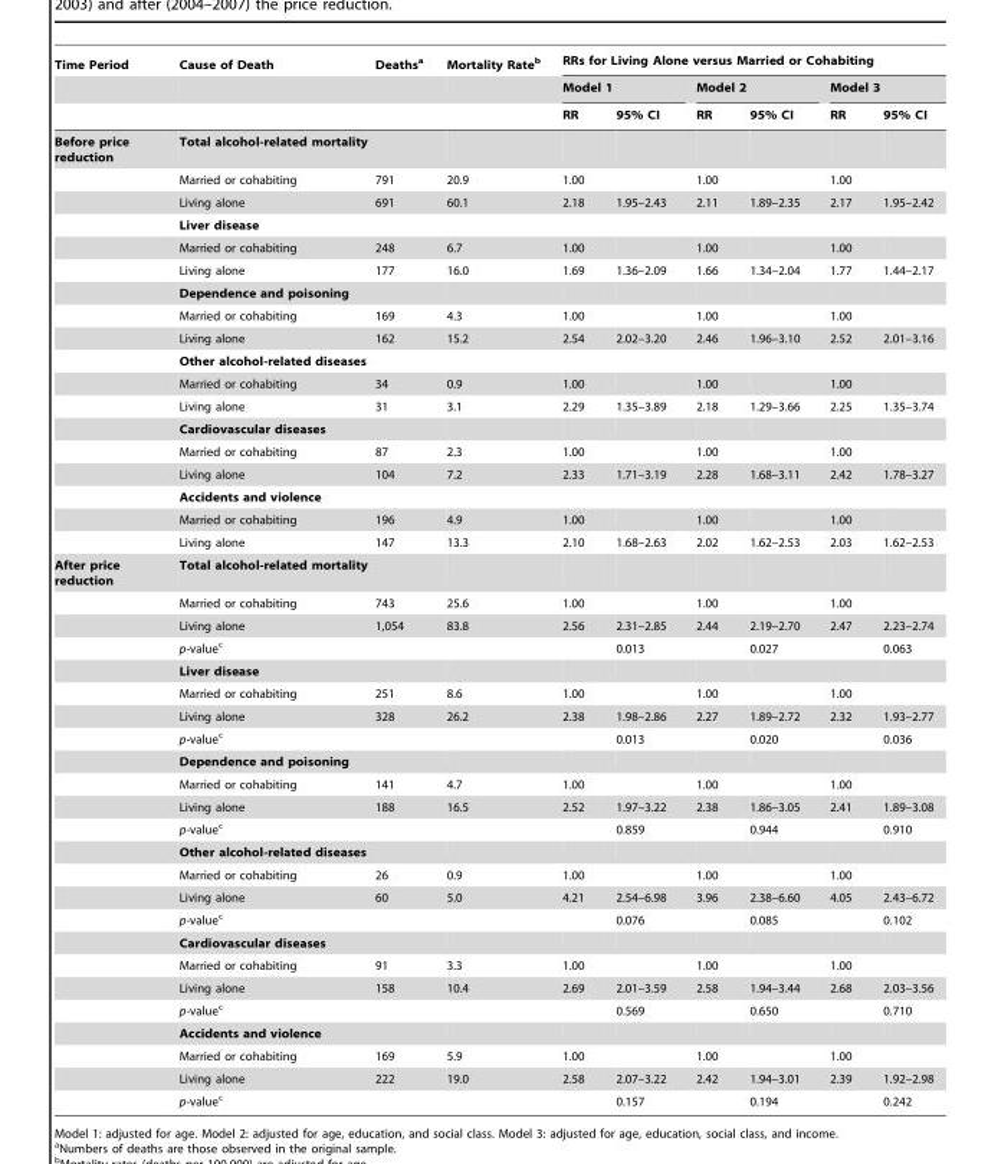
<table><thead><tr><td rowspan="3">Time Period</td><td rowspan="3">Cause of Death</td><td rowspan="3">Deaths<sup>a</sup></td><td rowspan="3">Mortality Rate<sup>b</sup></td><td colspan="6">RRs for Living Alone versus Married or Cohabiting</td></tr><tr><td colspan="2">Model 1</td><td colspan="2">Model 2</td><td colspan="2">Model 3</td></tr><tr><td>RR</td><td>95% CI</td><td>RR</td><td>95% CI</td><td>RR</td><td>95% CI</td></tr></thead><tbody><tr><td rowspan="18">Before price reduction</td><td>Total alcohol-related mortality</td><td></td><td></td><td></td><td></td><td></td><td></td><td></td><td></td></tr><tr><td>Married or cohabiting</td><td>791</td><td>20.9</td><td>1.00</td><td></td><td>1.00</td><td></td><td>1.00</td><td></td></tr><tr><td>Living alone</td><td>691</td><td>60.1</td><td>2.18</td><td>1.95–2.43</td><td>2.11</td><td>1.89–2.35</td><td>2.17</td><td>1.95–2.42</td></tr><tr><td>Liver disease</td><td></td><td></td><td></td><td></td><td></td><td></td><td></td><td></td></tr><tr><td>Married or cohabiting</td><td>248</td><td>6.7</td><td>1.00</td><td></td><td>1.00</td><td></td><td>1.00</td><td></td></tr><tr><td>Living alone</td><td>177</td><td>16.0</td><td>1.69</td><td>1.36–2.09</td><td>1.66</td><td>1.34–2.04</td><td>1.77</td><td>1.44–2.17</td></tr><tr><td>Dependence and poisoning</td><td></td><td></td><td></td><td></td><td></td><td></td><td></td><td></td></tr><tr><td>Married or cohabiting</td><td>169</td><td>4.3</td><td>1.00</td><td></td><td>1.00</td><td></td><td>1.00</td><td></td></tr><tr><td>Living alone</td><td>162</td><td>15.2</td><td>2.54</td><td>2.02–3.20</td><td>2.46</td><td>1.96–3.10</td><td>2.52</td><td>2.01–3.16</td></tr><tr><td>Other alcohol-related diseases</td><td></td><td></td><td></td><td></td><td></td><td></td><td></td><td></td></tr><tr><td>Married or cohabiting</td><td>34</td><td>0.9</td><td>1.00</td><td></td><td>1.00</td><td></td><td>1.00</td><td></td></tr><tr><td>Living alone</td><td>31</td><td>3.1</td><td>2.29</td><td>1.35–3.89</td><td>2.18</td><td>1.29–3.66</td><td>2.25</td><td>1.35–3.74</td></tr><tr><td>Cardiovascular diseases</td><td></td><td></td><td></td><td></td><td></td><td></td><td></td><td></td></tr><tr><td>Married or cohabiting</td><td>87</td><td>2.3</td><td>1.00</td><td></td><td>1.00</td><td></td><td>1.00</td><td></td></tr><tr><td>Living alone</td><td>104</td><td>7.2</td><td>2.33</td><td>1.71–3.19</td><td>2.28</td><td>1.68–3.11</td><td>2.42</td><td>1.78–3.27</td></tr><tr><td>Accidents and violence</td><td></td><td></td><td></td><td></td><td></td><td></td><td></td><td></td></tr><tr><td>Married or cohabiting</td><td>196</td><td>4.9</td><td>1.00</td><td></td><td>1.00</td><td></td><td>1.00</td><td></td></tr><tr><td>Living alone</td><td>147</td><td>13.3</td><td>2.10</td><td>1.68–2.63</td><td>2.02</td><td>1.62–2.53</td><td>2.03</td><td>1.62–2.53</td></tr><tr><td rowspan="24">After price reduction</td><td>Total alcohol-related mortality</td><td></td><td></td><td></td><td></td><td></td><td></td><td></td><td></td></tr><tr><td>Married or cohabiting</td><td>743</td><td>25.6</td><td>1.00</td><td></td><td>1.00</td><td></td><td>1.00</td><td></td></tr><tr><td>Living alone</td><td>1,054</td><td>83.8</td><td>2.56</td><td>2.31–2.85</td><td>2.44</td><td>2.19–2.70</td><td>2.47</td><td>2.23–2.74</td></tr><tr><td>p-value<sup>c</sup></td><td></td><td></td><td></td><td>0.013</td><td></td><td>0.027</td><td></td><td>0.063</td></tr><tr><td>Liver disease</td><td></td><td></td><td></td><td></td><td></td><td></td><td></td><td></td></tr><tr><td>Married or cohabiting</td><td>251</td><td>8.6</td><td>1.00</td><td></td><td>1.00</td><td></td><td>1.00</td><td></td></tr><tr><td>Living alone</td><td>328</td><td>26.2</td><td>2.38</td><td>1.98–2.86</td><td>2.27</td><td>1.89–2.72</td><td>2.32</td><td>1.93–2.77</td></tr><tr><td>p-value<sup>c</sup></td><td></td><td></td><td></td><td>0.013</td><td></td><td>0.020</td><td></td><td>0.036</td></tr><tr><td>Dependence and poisoning</td><td></td><td></td><td></td><td></td><td></td><td></td><td></td><td></td></tr><tr><td>Married or cohabiting</td><td>141</td><td>4.7</td><td>1.00</td><td></td><td>1.00</td><td></td><td>1.00</td><td></td></tr><tr><td>Living alone</td><td>188</td><td>16.5</td><td>2.52</td><td>1.97–3.22</td><td>2.38</td><td>1.86–3.05</td><td>2.41</td><td>1.89–3.08</td></tr><tr><td>p-value<sup>c</sup></td><td></td><td></td><td></td><td>0.859</td><td></td><td>0.944</td><td></td><td>0.910</td></tr><tr><td>Other alcohol-related diseases</td><td></td><td></td><td></td><td></td><td></td><td></td><td></td><td></td></tr><tr><td>Married or cohabiting</td><td>26</td><td>0.9</td><td>1.00</td><td></td><td>1.00</td><td></td><td>1.00</td><td></td></tr><tr><td>Living alone</td><td>60</td><td>5.0</td><td>4.21</td><td>2.54–6.98</td><td>3.96</td><td>2.38–6.60</td><td>4.05</td><td>2.43–6.72</td></tr><tr><td>p-value<sup>c</sup></td><td></td><td></td><td></td><td>0.076</td><td></td><td>0.085</td><td></td><td>0.102</td></tr><tr><td>Cardiovascular diseases</td><td></td><td></td><td></td><td></td><td></td><td></td><td></td><td></td></tr><tr><td>Married or cohabiting</td><td>91</td><td>3.3</td><td>1.00</td><td></td><td>1.00</td><td></td><td>1.00</td><td></td></tr><tr><td>Living alone</td><td>158</td><td>10.4</td><td>2.69</td><td>2.01–3.59</td><td>2.58</td><td>1.94–3.44</td><td>2.68</td><td>2.03–3.56</td></tr><tr><td>p-value<sup>c</sup></td><td></td><td></td><td></td><td>0.569</td><td></td><td>0.650</td><td></td><td>0.710</td></tr><tr><td>Accidents and violence</td><td></td><td></td><td></td><td></td><td></td><td></td><td></td><td></td></tr><tr><td>Married or cohabiting</td><td>169</td><td>5.9</td><td>1.00</td><td></td><td>1.00</td><td></td><td>1.00</td><td></td></tr><tr><td>Living alone</td><td>222</td><td>19.0</td><td>2.58</td><td>2.07–3.22</td><td>2.42</td><td>1.94–3.01</td><td>2.39</td><td>1.92–2.98</td></tr><tr><td>p-value<sup>c</sup></td><td></td><td></td><td></td><td>0.157</td><td></td><td>0.194</td><td></td><td>0.242</td></tr></tbody></table>